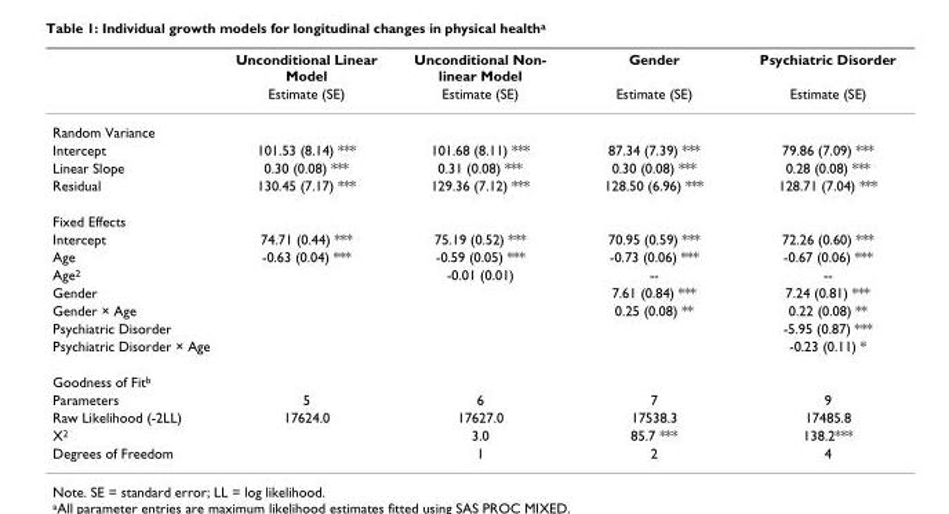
<table><thead><tr><td rowspan="2"></td><td rowspan="2">Unconditional Linear Model Estimate (SE)</td><td rowspan="2">Unconditional Non- linear Model Estimate (SE)</td><td rowspan="2">Gender Estimate (SE)</td><td rowspan="2">Psychiatric Disorder Estimate (SE)</td></tr><tr></tr></thead><tbody><tr><td colspan="5">Random Variance</td></tr><tr><td>Intercept</td><td>101.53 (8.14) ***</td><td>101.68 (8.11) ***</td><td>87.34 (7.39) ***</td><td>79.86 (7.09) ***</td></tr><tr><td>Linear Slope</td><td>0.30 (0.08) ***</td><td>0.31 (0.08) ***</td><td>0.30 (0.08) ***</td><td>0.28 (0.08) ***</td></tr><tr><td>Residual</td><td>130.45 (7.17) ***</td><td>129.36 (7.12) ***</td><td>128.50 (6.96) ***</td><td>128.71 (7.04) ***</td></tr><tr><td colspan="5">Fixed Effects</td></tr><tr><td>Intercept</td><td>74.71 (0.44) ***</td><td>75.19 (0.52) ***</td><td>70.95 (0.59) ***</td><td>72.26 (0.60) ***</td></tr><tr><td>Age</td><td>-0.63 (0.04) ***</td><td>-0.59 (0.05) ***</td><td>-0.73 (0.06) ***</td><td>-0.67 (0.06) ***</td></tr><tr><td>Age<sup>2</sup></td><td></td><td>-0.01 (0.01)</td><td>--</td><td>--</td></tr><tr><td>Gender</td><td></td><td></td><td>7.61 (0.84) ***</td><td>7.24 (0.81) ***</td></tr><tr><td>Gender × Age</td><td></td><td></td><td>0.25 (0.08) **</td><td>0.22 (0.08) **</td></tr><tr><td>Psychiatric Disorder</td><td></td><td></td><td></td><td>-5.95 (0.87) ***</td></tr><tr><td>Psychiatric Disorder × Age</td><td></td><td></td><td></td><td>-0.23 (0.11) *</td></tr><tr><td colspan="5">Goodness of Fit<sup>b</sup></td></tr><tr><td>Parameters</td><td>5</td><td>6</td><td>7</td><td>9</td></tr><tr><td>Raw Likelihood (-2LL)</td><td>17624.0</td><td>17627.0</td><td>17538.3</td><td>17485.8</td></tr><tr><td>X<sup>2</sup></td><td></td><td>3.0</td><td>85.7 ***</td><td>138.2***</td></tr><tr><td>Degrees of Freedom</td><td></td><td>1</td><td>2</td><td>4</td></tr></tbody></table>